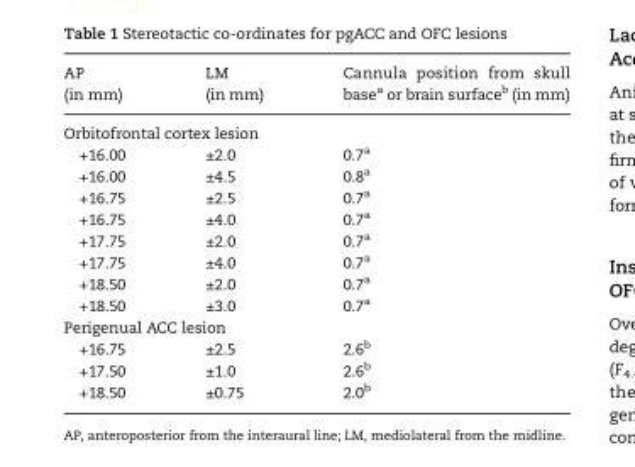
<table><thead><tr><td>AP (in mm)</td><td>LM (in mm)</td><td>Cannula position from skull base<sup>a</sup> or brain surface<sup>b</sup> (in mm)</td></tr></thead><tbody><tr><td colspan="3">Orbitofrontal cortex lesion</td></tr><tr><td>+16.00</td><td>±2.0</td><td>0.7<sup>a</sup></td></tr><tr><td>+16.00</td><td>±4.5</td><td>0.8<sup>a</sup></td></tr><tr><td>+16.75</td><td>±2.5</td><td>0.7<sup>a</sup></td></tr><tr><td>+16.75</td><td>±4.0</td><td>0.7<sup>a</sup></td></tr><tr><td>+17.75</td><td>±2.0</td><td>0.7<sup>a</sup></td></tr><tr><td>+17.75</td><td>±4.0</td><td>0.7<sup>a</sup></td></tr><tr><td>+18.50</td><td>±2.0</td><td>0.7<sup>a</sup></td></tr><tr><td>+18.50</td><td>±3.0</td><td>0.7<sup>a</sup></td></tr><tr><td colspan="3">Perigenual ACC lesion</td></tr><tr><td>+16.75</td><td>±2.5</td><td>2.6<sup>b</sup></td></tr><tr><td>+17.50</td><td>±1.0</td><td>2.6<sup>b</sup></td></tr><tr><td>+18.50</td><td>±0.75</td><td>2.0<sup>b</sup></td></tr></tbody></table>